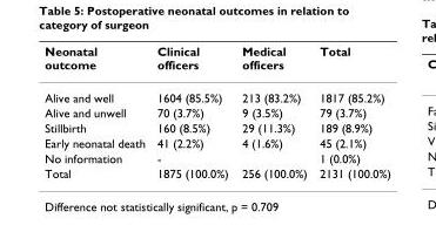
<table><thead><tr><td>Neonatal outcome</td><td>Clinical officers</td><td>Medical officers</td><td>Total</td></tr></thead><tbody><tr><td>Alive and well</td><td>1604 (85.5%)</td><td>213 (83.2%)</td><td>1817 (85.2%)</td></tr><tr><td>Alive and unwell</td><td>70 (3.7%)</td><td>9 (3.5%)</td><td>79 (3.7%)</td></tr><tr><td>Stillbirth</td><td>160 (8.5%)</td><td>29 (11.3%)</td><td>189 (8.9%)</td></tr><tr><td>Early neonatal death</td><td>41 (2.2%)</td><td>4 (1.6%)</td><td>45 (2.1%)</td></tr><tr><td>No information</td><td>-</td><td></td><td>1 (0.0%)</td></tr><tr><td>Total</td><td>1875 (100.0%)</td><td>256 (100.0%)</td><td>2131 (100.0%)</td></tr></tbody></table>